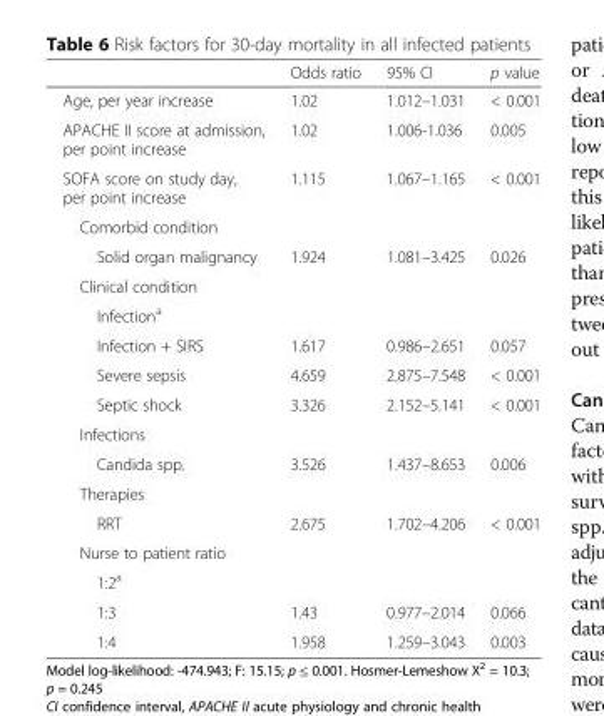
<table><thead><tr><td></td><td>Odds ratio</td><td>95% CI</td><td>p value</td></tr></thead><tbody><tr><td>Age, per year increase</td><td>1.02</td><td>1.012–1.031</td><td>&lt; 0.001</td></tr><tr><td>APACHE II score at admission, per point increase</td><td>1.02</td><td>1.006-1.036</td><td>0.005</td></tr><tr><td>SOFA score on study day, per point increase</td><td>1.115</td><td>1.067–1.165</td><td>&lt; 0.001</td></tr><tr><td colspan="4">Comorbid condition</td></tr><tr><td>Solid organ malignancy</td><td>1.924</td><td>1.081–3.425</td><td>0.026</td></tr><tr><td colspan="4">Clinical condition</td></tr><tr><td colspan="4">Infection<sup>a</sup></td></tr><tr><td>Infection + SIRS</td><td>1.617</td><td>0.986–2.651</td><td>0.057</td></tr><tr><td>Severe sepsis</td><td>4.659</td><td>2.875–7.548</td><td>&lt; 0.001</td></tr><tr><td>Septic shock</td><td>3.326</td><td>2.152–5.141</td><td>&lt; 0.001</td></tr><tr><td colspan="4">Infections</td></tr><tr><td>Candida spp.</td><td>3.526</td><td>1.437–8.653</td><td>0.006</td></tr><tr><td colspan="4">Therapies</td></tr><tr><td>RRT</td><td>2.675</td><td>1.702–4.206</td><td>&lt; 0.001</td></tr><tr><td colspan="4">Nurse to patient ratio</td></tr><tr><td colspan="4">1:2<sup>a</sup></td></tr><tr><td>1:3</td><td>1.43</td><td>0.977–2.014</td><td>0.066</td></tr><tr><td>1:4</td><td>1.958</td><td>1.259–3.043</td><td>0.003</td></tr></tbody></table>